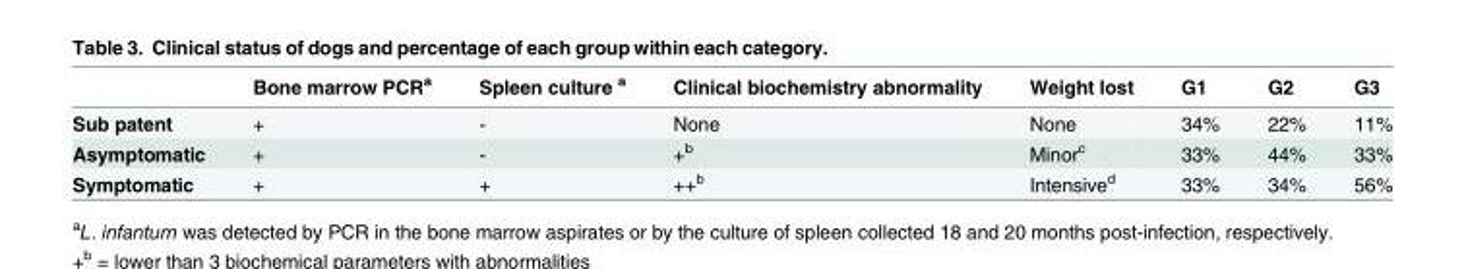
<table><thead><tr><td></td><td>Bone marrow PCRa</td><td>Spleen culture a</td><td>Clinical biochemistry abnormality</td><td>Weight lost</td><td>G1</td><td>G2</td><td>G3</td></tr></thead><tbody><tr><td>Sub patent</td><td>+</td><td>-</td><td>None</td><td>None</td><td>34%</td><td>22%</td><td>11%</td></tr><tr><td>Asymptomatic</td><td>+</td><td>-</td><td>+b</td><td>Minorc</td><td>33%</td><td>44%</td><td>33%</td></tr><tr><td>Symptomatic</td><td>+</td><td>+</td><td>++b</td><td>Intensived</td><td>33%</td><td>34%</td><td>56%</td></tr></tbody></table>